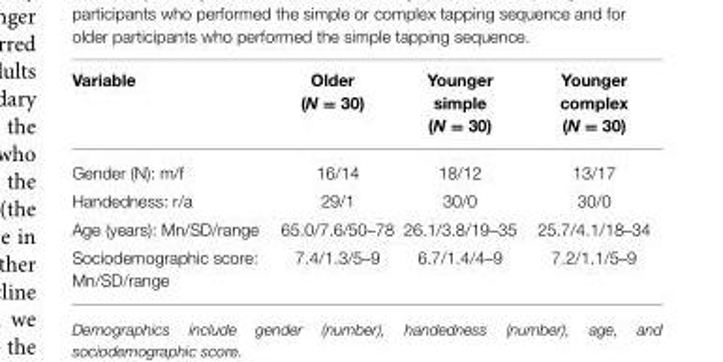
<table><thead><tr><td>Variable</td><td>Older (N = 30)</td><td>Younger simple (N = 30)</td><td>Younger complex (N = 30)</td></tr></thead><tbody><tr><td>Gender (N): m/f</td><td>16/14</td><td>18/12</td><td>13/17</td></tr><tr><td>Handedness: r/a</td><td>29/1</td><td>30/0</td><td>30/0</td></tr><tr><td>Age (years): Mn/SD/range</td><td>65.0/7.6/50–78</td><td>26.1/3.8/19–35</td><td>25.7/4.1/18–34</td></tr><tr><td>Sociodemographic score: Mn/SD/range</td><td>7.4/1.3/5–9</td><td>6.7/1.4/4–9</td><td>7.2/1.1/5–9</td></tr></tbody></table>